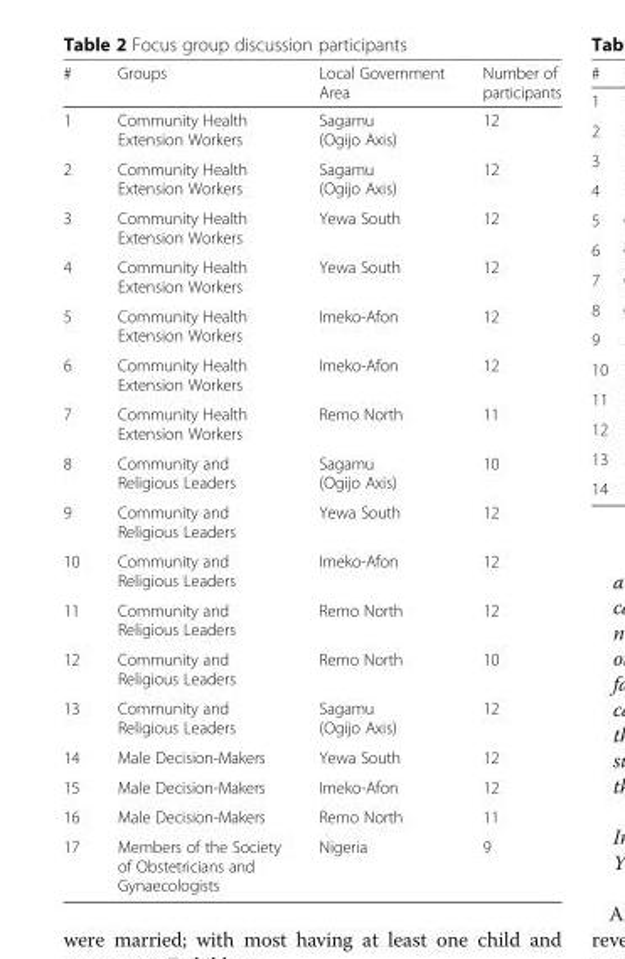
<table><thead><tr><td>#</td><td>Groups</td><td>Local Government Area</td><td>Number of participants</td></tr></thead><tbody><tr><td>1</td><td>Community Health Extension Workers</td><td>Sagamu (Ogijo Axis)</td><td>12</td></tr><tr><td>2</td><td>Community Health Extension Workers</td><td>Sagamu (Ogijo Axis)</td><td>12</td></tr><tr><td>3</td><td>Community Health Extension Workers</td><td>Yewa South</td><td>12</td></tr><tr><td>4</td><td>Community Health Extension Workers</td><td>Yewa South</td><td>12</td></tr><tr><td>5</td><td>Community Health Extension Workers</td><td>Imeko-Afon</td><td>12</td></tr><tr><td>6</td><td>Community Health Extension Workers</td><td>Imeko-Afon</td><td>12</td></tr><tr><td>7</td><td>Community Health Extension Workers</td><td>Remo North</td><td>11</td></tr><tr><td>8</td><td>Community and Religious Leaders</td><td>Sagamu (Ogijo Axis)</td><td>10</td></tr><tr><td>9</td><td>Community and Religious Leaders</td><td>Yewa South</td><td>12</td></tr><tr><td>10</td><td>Community and Religious Leaders</td><td>Imeko-Afon</td><td>12</td></tr><tr><td>11</td><td>Community and Religious Leaders</td><td>Remo North</td><td>12</td></tr><tr><td>12</td><td>Community and Religious Leaders</td><td>Remo North</td><td>10</td></tr><tr><td>13</td><td>Community and Religious Leaders</td><td>Sagamu (Ogijo Axis)</td><td>12</td></tr><tr><td>14</td><td>Male Decision-Makers</td><td>Yewa South</td><td>12</td></tr><tr><td>15</td><td>Male Decision-Makers</td><td>Imeko-Afon</td><td>12</td></tr><tr><td>16</td><td>Male Decision-Makers</td><td>Remo North</td><td>11</td></tr><tr><td>17</td><td>Members of the Society of Obstetricians and Gynaecologists</td><td>Nigeria</td><td>9</td></tr></tbody></table>